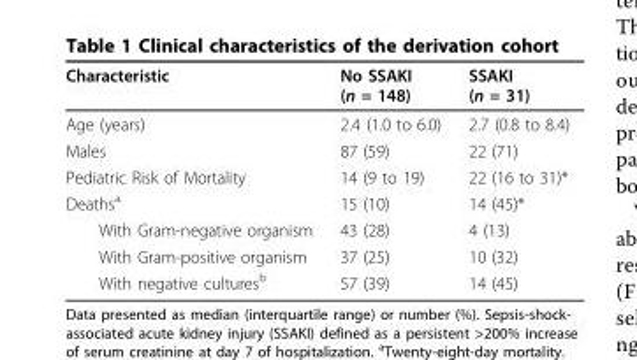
<table><thead><tr><td>Characteristic</td><td>No SSAKI (n = 148)</td><td>SSAKI (n = 31)</td></tr></thead><tbody><tr><td>Age (years)</td><td>2.4 (1.0 to 6.0)</td><td>2.7 (0.8 to 8.4)</td></tr><tr><td>Males</td><td>87 (59)</td><td>22 (71)</td></tr><tr><td>Pediatric Risk of Mortality</td><td>14 (9 to 19)</td><td>22 (16 to 31)*</td></tr><tr><td>Deaths<sup>a</sup></td><td>15 (10)</td><td>14 (45)*</td></tr><tr><td>With Gram-negative organism</td><td>43 (28)</td><td>4 (13)</td></tr><tr><td>With Gram-positive organism</td><td>37 (25)</td><td>10 (32)</td></tr><tr><td>With negative cultures<sup>b</sup></td><td>57 (39)</td><td>14 (45)</td></tr></tbody></table>